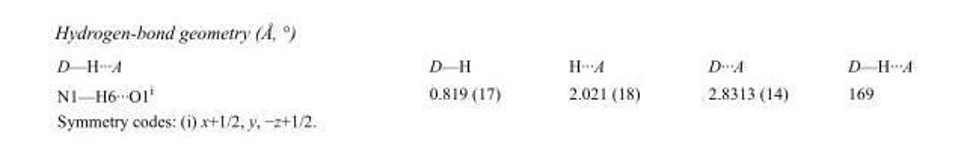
<table><tbody><tr><td>D—H···A</td><td>D—H</td><td>H···A</td><td>D···A</td><td>D—H···A</td></tr><tr><td>N1—H6···O1<sup>i</sup></td><td>0.819 (17)</td><td>2.021 (18)</td><td>2.8313 (14)</td><td>169</td></tr></tbody></table>